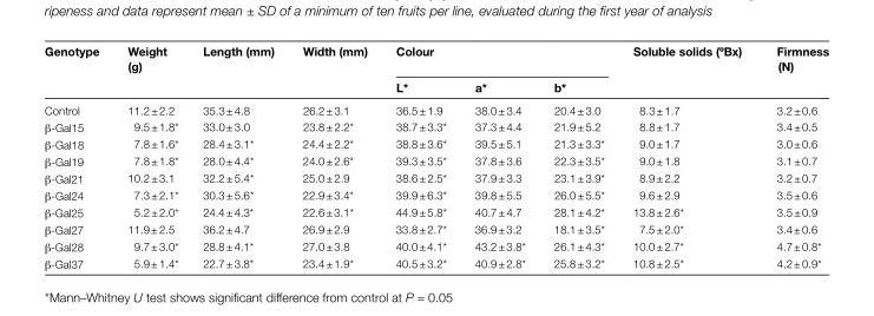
<table><thead><tr><td rowspan="2">Genotype</td><td rowspan="2">Weight (g)</td><td rowspan="2">Length (mm)</td><td rowspan="2">Width (mm)</td><td colspan="3">Colour</td><td rowspan="2">Soluble solids (ºBx)</td><td rowspan="2">Firmness (N)</td></tr><tr><td>L*</td><td>a*</td><td>b*</td></tr></thead><tbody><tr><td>Control</td><td>11.2 ± 2.2</td><td>35.3 ± 4.8</td><td>26.2 ± 3.1</td><td>36.5 ± 1.9</td><td>38.0 ± 3.4</td><td>20.4 ± 3.0</td><td>8.3 ± 1.7</td><td>3.2 ± 0.6</td></tr><tr><td>β-Gal15</td><td>9.5 ± 1.8*</td><td>33.0 ± 3.0</td><td>23.8 ± 2.2*</td><td>38.7 ± 3.3*</td><td>37.3 ± 4.4</td><td>21.9 ± 5.2</td><td>8.8 ± 1.7</td><td>3.4 ± 0.5</td></tr><tr><td>β-Gal18</td><td>7.8 ± 1.6*</td><td>28.4 ± 3.1*</td><td>24.4 ± 2.2*</td><td>38.8 ± 3.6*</td><td>39.5 ± 5.1</td><td>21.3 ± 3.3*</td><td>9.0 ± 1.7</td><td>3.0 ± 0.6</td></tr><tr><td>β-Gal19</td><td>7.8 ± 1.8*</td><td>28.0 ± 4.4*</td><td>24.0 ± 2.6*</td><td>39.3 ± 3.5*</td><td>37.8 ± 3.6</td><td>22.3 ± 3.5*</td><td>9.0 ± 1.8</td><td>3.1 ± 0.7</td></tr><tr><td>β-Gal21</td><td>10.2 ± 3.1</td><td>32.2 ± 5.4*</td><td>25.0 ± 2.9</td><td>38.6 ± 2.5*</td><td>37.9 ± 3.3</td><td>23.1 ± 3.9*</td><td>8.9 ± 2.2</td><td>3.2 ± 0.7</td></tr><tr><td>β-Gal24</td><td>7.3 ± 2.1*</td><td>30.3 ± 5.6*</td><td>22.9 ± 3.4*</td><td>39.9 ± 6.3*</td><td>39.8 ± 5.5</td><td>26.0 ± 5.5*</td><td>9.6 ± 2.9</td><td>3.5 ± 0.6</td></tr><tr><td>β-Gal25</td><td>5.2 ± 2.0*</td><td>24.4 ± 4.3*</td><td>22.6 ± 3.1*</td><td>44.9 ± 5.8*</td><td>40.7 ± 4.7</td><td>28.1 ± 4.2*</td><td>13.8 ± 2.6*</td><td>3.5 ± 0.9</td></tr><tr><td>β-Gal27</td><td>11.9 ± 2.5</td><td>36.2 ± 4.7</td><td>26.9 ± 2.9</td><td>33.8 ± 2.7*</td><td>36.9 ± 3.2</td><td>18.1 ± 3.5*</td><td>7.5 ± 2.0*</td><td>3.4 ± 0.6</td></tr><tr><td>β-Gal28</td><td>9.7 ± 3.0*</td><td>28.8 ± 4.1*</td><td>27.0 ± 3.8</td><td>40.0 ± 4.1*</td><td>43.2 ± 3.8*</td><td>26.1 ± 4.3*</td><td>10.0 ± 2.7*</td><td>4.7 ± 0.8*</td></tr><tr><td>β-Gal37</td><td>5.9 ± 1.4*</td><td>22.7 ± 3.8*</td><td>23.4 ± 1.9*</td><td>40.5 ± 3.2*</td><td>40.9 ± 2.8*</td><td>25.8 ± 3.2*</td><td>10.8 ± 2.5*</td><td>4.2 ± 0.9*</td></tr></tbody></table>